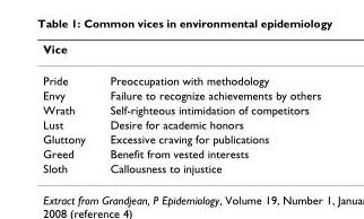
<table><thead><tr><td>Vice</td><td></td></tr></thead><tbody><tr><td>Pride</td><td>Preoccupation with methodology</td></tr><tr><td>Envy</td><td>Failure to recognize achievements by others</td></tr><tr><td>Wrath</td><td>Self-righteous intimidation of competitors</td></tr><tr><td>Lust</td><td>Desire for academic honors</td></tr><tr><td>Gluttony</td><td>Excessive craving for publications</td></tr><tr><td>Greed</td><td>Benefit from vested interests</td></tr><tr><td>Sloth</td><td>Callousness to injustice</td></tr></tbody></table>